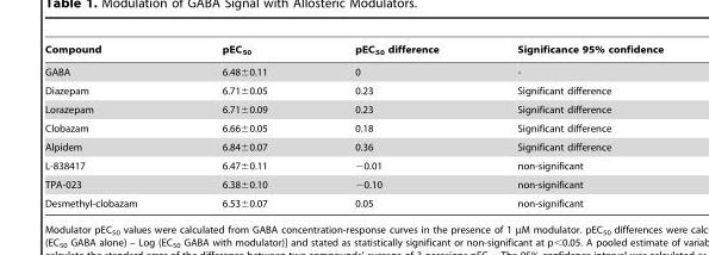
<table><thead><tr><td>Compound</td><td>pEC<sub>50</sub></td><td>pEC<sub>50</sub> difference</td><td>Significance 95% confidence</td></tr></thead><tbody><tr><td>GABA</td><td>6.48±0.11</td><td>0</td><td>-</td></tr><tr><td>Diazepam</td><td>6.71±0.05</td><td>0.23</td><td>Significant difference</td></tr><tr><td>Lorazepam</td><td>6.71±0.09</td><td>0.23</td><td>Significant difference</td></tr><tr><td>Clobazam</td><td>6.66±0.05</td><td>0.18</td><td>Significant difference</td></tr><tr><td>Alpidem</td><td>6.84±0.07</td><td>0.36</td><td>Significant difference</td></tr><tr><td>L-838417</td><td>6.47±0.11</td><td>−0.01</td><td>non-significant</td></tr><tr><td>TPA-023</td><td>6.38±0.10</td><td>−0.10</td><td>non-significant</td></tr><tr><td>Desmethyl-clobazam</td><td>6.53±0.07</td><td>0.05</td><td>non-significant</td></tr></tbody></table>